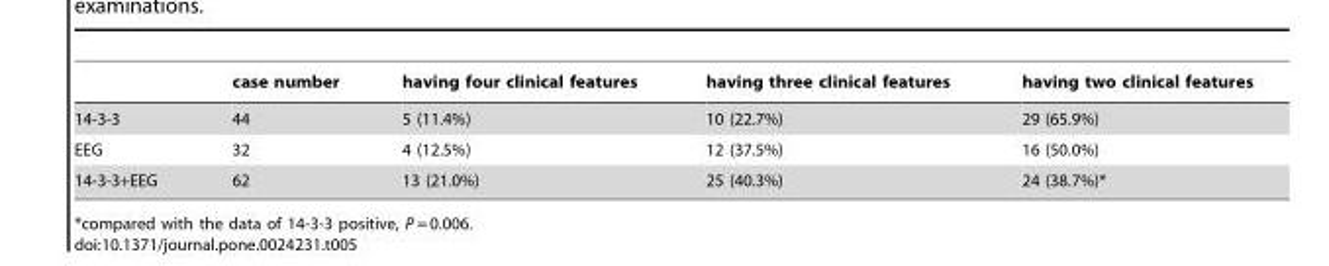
<table><thead><tr><td></td><td>case number</td><td>having four clinical features</td><td>having three clinical features</td><td>having two clinical features</td></tr></thead><tbody><tr><td>14-3-3</td><td>44</td><td>5 (11.4%)</td><td>10 (22.7%)</td><td>29 (65.9%)</td></tr><tr><td>EEG</td><td>32</td><td>4 (12.5%)</td><td>12 (37.5%)</td><td>16 (50.0%)</td></tr><tr><td>14-3-3+EEG</td><td>62</td><td>13 (21.0%)</td><td>25 (40.3%)</td><td>24 (38.7%)*</td></tr></tbody></table>